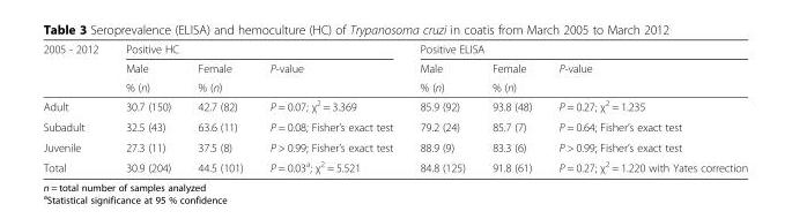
<table><thead><tr><td rowspan="3">2005 - 2012</td><td colspan="3">Positive HC</td><td colspan="3">Positive ELISA</td></tr><tr><td rowspan="2">Male % (n)</td><td rowspan="2">Female % (n)</td><td rowspan="2">P-value</td><td rowspan="2">Male % (n)</td><td rowspan="2">Female % (n)</td><td rowspan="2">P-value</td></tr><tr></tr></thead><tbody><tr><td>Adult</td><td>30.7 (150)</td><td>42.7 (82)</td><td>P = 0.07; χ<sup>2</sup> = 3.369</td><td>85.9 (92)</td><td>93.8 (48)</td><td>P = 0.27; χ<sup>2</sup> = 1.235</td></tr><tr><td>Subadult</td><td>32.5 (43)</td><td>63.6 (11)</td><td>P = 0.08; Fisher’s exact test</td><td>79.2 (24)</td><td>85.7 (7)</td><td>P = 0.64; Fisher’s exact test</td></tr><tr><td>Juvenile</td><td>27.3 (11)</td><td>37.5 (8)</td><td>P &gt; 0.99; Fisher’s exact test</td><td>88.9 (9)</td><td>83.3 (6)</td><td>P &gt; 0.99; Fisher’s exact test</td></tr><tr><td>Total</td><td>30.9 (204)</td><td>44.5 (101)</td><td>P = 0.03<sup>a</sup>; χ<sup>2</sup> = 5.521</td><td>84.8 (125)</td><td>91.8 (61)</td><td>P = 0.27; χ<sup>2</sup> = 1.220 with Yates correction</td></tr></tbody></table>